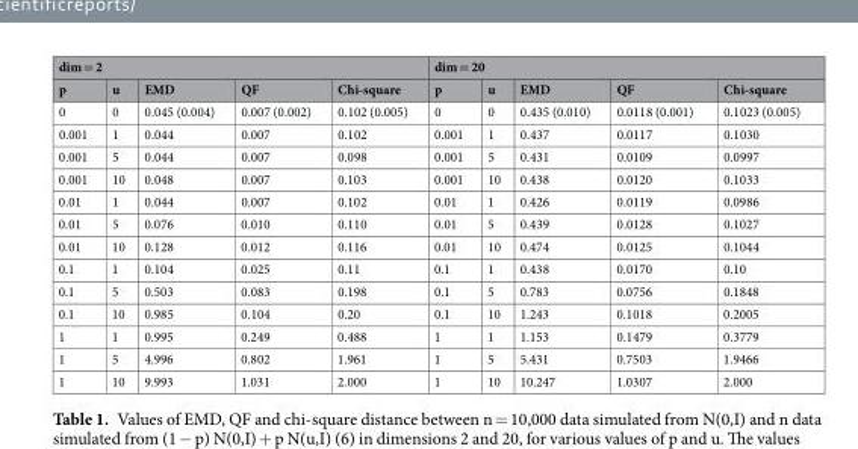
<table><thead><tr><td colspan="5">dim = 2</td><td colspan="5">dim = 20</td></tr><tr><td>p</td><td>u</td><td>EMD</td><td>QF</td><td>Chi-square</td><td>p</td><td>u</td><td>EMD</td><td>QF</td><td>Chi-square</td></tr></thead><tbody><tr><td>0</td><td>0</td><td>0.045 (0.004)</td><td>0.007 (0.002)</td><td>0.102 (0.005)</td><td>0</td><td>0</td><td>0.435 (0.010)</td><td>0.0118 (0.001)</td><td>0.1023 (0.005)</td></tr><tr><td>0.001</td><td>1</td><td>0.044</td><td>0.007</td><td>0.102</td><td>0.001</td><td>1</td><td>0.437</td><td>0.0117</td><td>0.1030</td></tr><tr><td>0.001</td><td>5</td><td>0.044</td><td>0.007</td><td>0.098</td><td>0.001</td><td>5</td><td>0.431</td><td>0.0109</td><td>0.0997</td></tr><tr><td>0.001</td><td>10</td><td>0.048</td><td>0.007</td><td>0.103</td><td>0.001</td><td>10</td><td>0.438</td><td>0.0120</td><td>0.1033</td></tr><tr><td>0.01</td><td>1</td><td>0.044</td><td>0.007</td><td>0.102</td><td>0.01</td><td>1</td><td>0.426</td><td>0.0119</td><td>0.0986</td></tr><tr><td>0.01</td><td>5</td><td>0.076</td><td>0.010</td><td>0.110</td><td>0.01</td><td>5</td><td>0.439</td><td>0.0128</td><td>0.1027</td></tr><tr><td>0.01</td><td>10</td><td>0.128</td><td>0.012</td><td>0.116</td><td>0.01</td><td>10</td><td>0.474</td><td>0.0125</td><td>0.1044</td></tr><tr><td>0.1</td><td>1</td><td>0.104</td><td>0.025</td><td>0.11</td><td>0.1</td><td>1</td><td>0.438</td><td>0.0170</td><td>0.10</td></tr><tr><td>0.1</td><td>5</td><td>0.503</td><td>0.083</td><td>0.198</td><td>0.1</td><td>5</td><td>0.783</td><td>0.0756</td><td>0.1848</td></tr><tr><td>0.1</td><td>10</td><td>0.985</td><td>0.104</td><td>0.20</td><td>0.1</td><td>10</td><td>1.243</td><td>0.1018</td><td>0.2005</td></tr><tr><td>1</td><td>1</td><td>0.995</td><td>0.249</td><td>0.488</td><td>1</td><td>1</td><td>1.153</td><td>0.1479</td><td>0.3779</td></tr><tr><td>1</td><td>5</td><td>4.996</td><td>0.802</td><td>1.961</td><td>1</td><td>5</td><td>5.431</td><td>0.7503</td><td>1.9466</td></tr><tr><td>1</td><td>10</td><td>9.993</td><td>1.031</td><td>2.000</td><td>1</td><td>10</td><td>10.247</td><td>1.0307</td><td>2.000</td></tr></tbody></table>